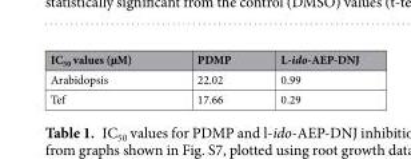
<table><thead><tr><td>IC<sub>50</sub> values (µM)</td><td>PDMP</td><td>L-ido-AEP-DNJ</td></tr></thead><tbody><tr><td>Arabidopsis</td><td>22.02</td><td>0.99</td></tr><tr><td>Tef</td><td>17.66</td><td>0.29</td></tr></tbody></table>